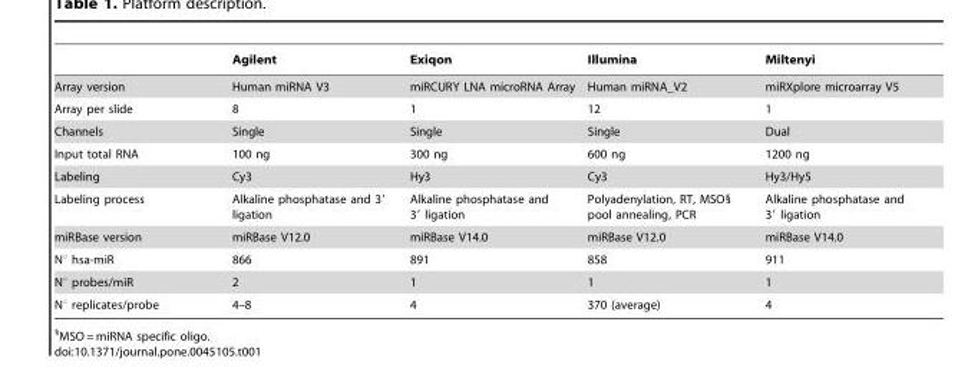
<table><thead><tr><td></td><td>Agilent</td><td>Exiqon</td><td>Illumina</td><td>Miltenyi</td></tr></thead><tbody><tr><td>Array version</td><td>Human miRNA V3</td><td>miRCURY LNA microRNA Array</td><td>Human miRNA_V2</td><td>miRXplore microarray V5</td></tr><tr><td>Array per slide</td><td>8</td><td>1</td><td>12</td><td>1</td></tr><tr><td>Channels</td><td>Single</td><td>Single</td><td>Single</td><td>Dual</td></tr><tr><td>Input total RNA</td><td>100 ng</td><td>300 ng</td><td>600 ng</td><td>1200 ng</td></tr><tr><td>Labeling</td><td>Cy3</td><td>Hy3</td><td>Cy3</td><td>Hy3/Hy5</td></tr><tr><td>Labeling process</td><td>Alkaline phosphatase and 3′ ligation</td><td>Alkaline phosphatase and 3′ ligation</td><td>Polyadenylation, RT, MSO§ pool annealing, PCR</td><td>Alkaline phosphatase and 3′ ligation</td></tr><tr><td>miRBase version</td><td>miRBase V12.0</td><td>miRBase V14.0</td><td>miRBase V12.0</td><td>miRBase V14.0</td></tr><tr><td>N° hsa-miR</td><td>866</td><td>891</td><td>858</td><td>911</td></tr><tr><td>N° probes/miR</td><td>2</td><td>1</td><td>1</td><td>1</td></tr><tr><td>N° replicates/probe</td><td>4–8</td><td>4</td><td>370 (average)</td><td>4</td></tr></tbody></table>